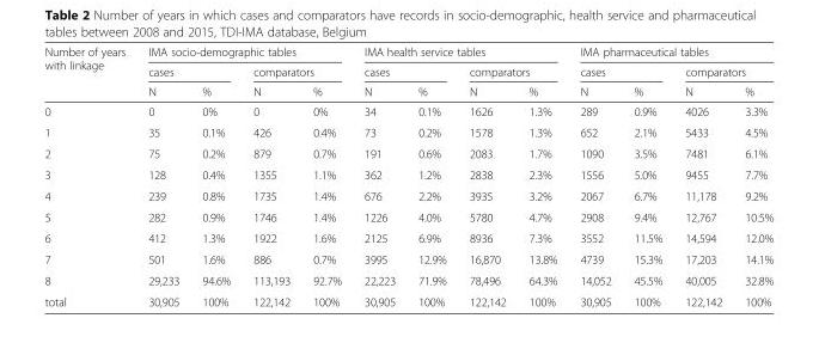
<table><thead><tr><td rowspan="3">Number of years with linkage</td><td colspan="4">IMA socio-demographic tables</td><td colspan="4">IMA health service tables</td><td colspan="4">IMA pharmaceutical tables</td></tr><tr><td colspan="2">cases</td><td colspan="2">comparators</td><td colspan="2">cases</td><td colspan="2">comparators</td><td colspan="2">cases</td><td colspan="2">comparators</td></tr><tr><td>N</td><td>%</td><td>N</td><td>%</td><td>N</td><td>%</td><td>N</td><td>%</td><td>N</td><td>%</td><td>N</td><td>%</td></tr></thead><tbody><tr><td>0</td><td>0</td><td>0%</td><td>0</td><td>0%</td><td>34</td><td>0.1%</td><td>1626</td><td>1.3%</td><td>289</td><td>0.9%</td><td>4026</td><td>3.3%</td></tr><tr><td>1</td><td>35</td><td>0.1%</td><td>426</td><td>0.4%</td><td>73</td><td>0.2%</td><td>1578</td><td>1.3%</td><td>652</td><td>2.1%</td><td>5433</td><td>4.5%</td></tr><tr><td>2</td><td>75</td><td>0.2%</td><td>879</td><td>0.7%</td><td>191</td><td>0.6%</td><td>2083</td><td>1.7%</td><td>1090</td><td>3.5%</td><td>7481</td><td>6.1%</td></tr><tr><td>3</td><td>128</td><td>0.4%</td><td>1355</td><td>1.1%</td><td>362</td><td>1.2%</td><td>2838</td><td>2.3%</td><td>1556</td><td>5.0%</td><td>9455</td><td>7.7%</td></tr><tr><td>4</td><td>239</td><td>0.8%</td><td>1735</td><td>1.4%</td><td>676</td><td>2.2%</td><td>3935</td><td>3.2%</td><td>2067</td><td>6.7%</td><td>11,178</td><td>9.2%</td></tr><tr><td>5</td><td>282</td><td>0.9%</td><td>1746</td><td>1.4%</td><td>1226</td><td>4.0%</td><td>5780</td><td>4.7%</td><td>2908</td><td>9.4%</td><td>12,767</td><td>10.5%</td></tr><tr><td>6</td><td>412</td><td>1.3%</td><td>1922</td><td>1.6%</td><td>2125</td><td>6.9%</td><td>8936</td><td>7.3%</td><td>3552</td><td>11.5%</td><td>14,594</td><td>12.0%</td></tr><tr><td>7</td><td>501</td><td>1.6%</td><td>886</td><td>0.7%</td><td>3995</td><td>12.9%</td><td>16,870</td><td>13.8%</td><td>4739</td><td>15.3%</td><td>17,203</td><td>14.1%</td></tr><tr><td>8</td><td>29,233</td><td>94.6%</td><td>113,193</td><td>92.7%</td><td>22,223</td><td>71.9%</td><td>78,496</td><td>64.3%</td><td>14,052</td><td>45.5%</td><td>40,005</td><td>32.8%</td></tr><tr><td>total</td><td>30,905</td><td>100%</td><td>122,142</td><td>100%</td><td>30,905</td><td>100%</td><td>122,142</td><td>100%</td><td>30,905</td><td>100%</td><td>122,142</td><td>100%</td></tr></tbody></table>